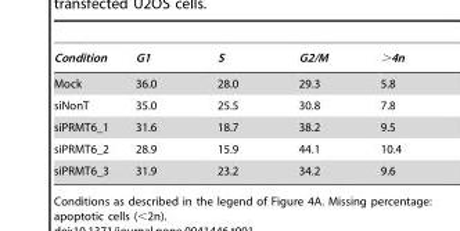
<table><thead><tr><td>Condition</td><td>G1</td><td>S</td><td>G2/M</td><td>&gt;4n</td></tr></thead><tbody><tr><td>Mock</td><td>36.0</td><td>28.0</td><td>29.3</td><td>5.8</td></tr><tr><td>siNonT</td><td>35.0</td><td>25.5</td><td>30.8</td><td>7.8</td></tr><tr><td>siPRMT6_1</td><td>31.6</td><td>18.7</td><td>38.2</td><td>9.5</td></tr><tr><td>siPRMT6_2</td><td>28.9</td><td>15.9</td><td>44.1</td><td>10.4</td></tr><tr><td>siPRMT6_3</td><td>31.9</td><td>23.2</td><td>34.2</td><td>9.6</td></tr></tbody></table>